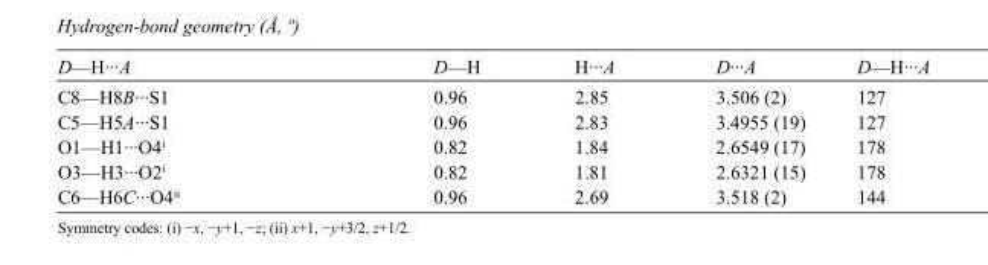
<table><tbody><tr><td>D—H···A</td><td>D—H</td><td>H···A</td><td>D···A</td><td>D—H···A</td></tr><tr><td>C8—H8B···S1</td><td>0.96</td><td>2.85</td><td>3.506 (2)</td><td>127</td></tr><tr><td>C5—H5A···S1</td><td>0.96</td><td>2.83</td><td>3.4955 (19)</td><td>127</td></tr><tr><td>O1—H1···O4<sup>i</sup></td><td>0.82</td><td>1.84</td><td>2.6549 (17)</td><td>178</td></tr><tr><td>O3—H3···O2<sup>i</sup></td><td>0.82</td><td>1.81</td><td>2.6321 (15)</td><td>178</td></tr><tr><td>C6—H6C···O4<sup>ii</sup></td><td>0.96</td><td>2.69</td><td>3.518 (2)</td><td>144</td></tr></tbody></table>